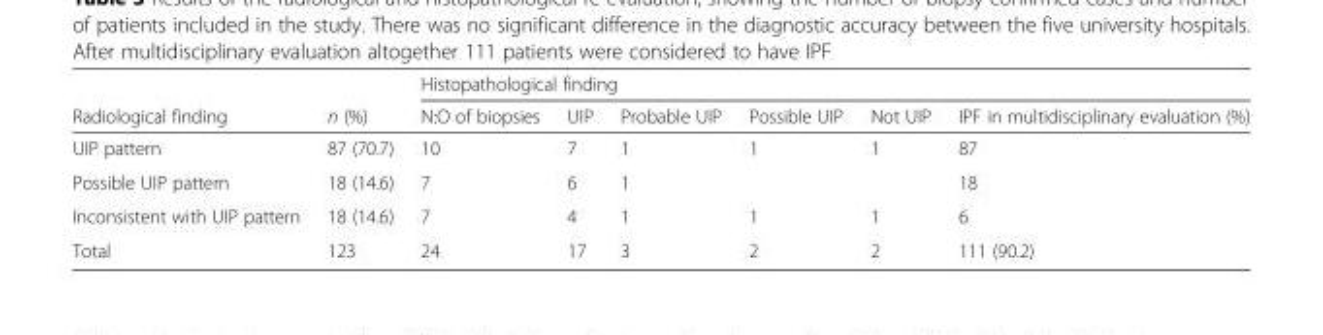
<table><thead><tr><td rowspan="2">Radiological finding</td><td rowspan="2">n (%)</td><td colspan="6">Histopathological finding</td></tr><tr><td>N:O of biopsies</td><td>UIP</td><td>Probable UIP</td><td>Possible UIP</td><td>Not UIP</td><td>IPF in multidisciplinary evaluation (%)</td></tr></thead><tbody><tr><td>UIP pattern</td><td>87 (70.7)</td><td>10</td><td>7</td><td>1</td><td>1</td><td>1</td><td>87</td></tr><tr><td>Possible UIP pattern</td><td>18 (14.6)</td><td>7</td><td>6</td><td>1</td><td></td><td></td><td>18</td></tr><tr><td>Inconsistent with UIP pattern</td><td>18 (14.6)</td><td>7</td><td>4</td><td>1</td><td>1</td><td>1</td><td>6</td></tr><tr><td>Total</td><td>123</td><td>24</td><td>17</td><td>3</td><td>2</td><td>2</td><td>111 (90.2)</td></tr></tbody></table>